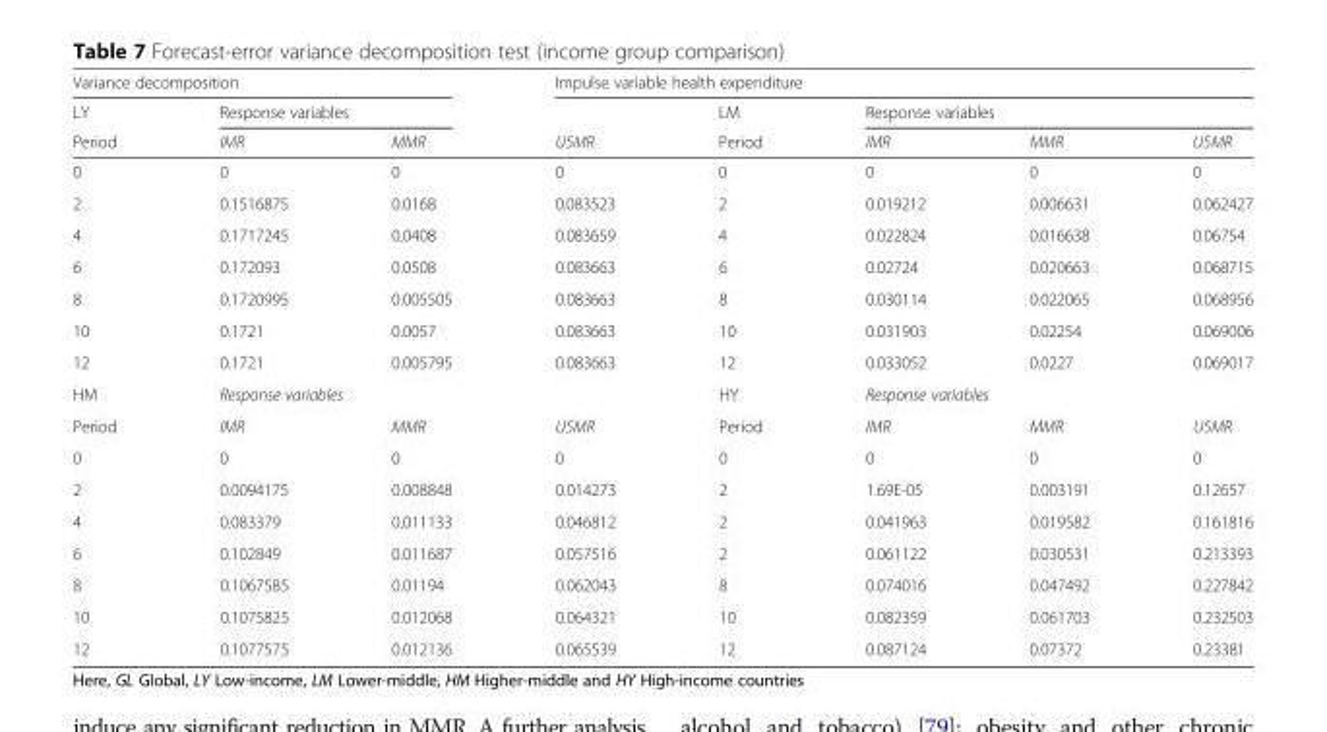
<table><thead><tr><td colspan="3">Variance decomposition</td><td colspan="5">Impulse variable health expenditure</td></tr><tr><td rowspan="2">LY Period</td><td colspan="2">Response variables</td><td rowspan="2">U5MR</td><td rowspan="2">LM Period</td><td colspan="3">Response variables</td></tr><tr><td>IMR</td><td>MMR</td><td>IMR</td><td>MMR</td><td>U5MR</td></tr></thead><tbody><tr><td>0</td><td>0</td><td>0</td><td>0</td><td>0</td><td>0</td><td>0</td><td>0</td></tr><tr><td>2</td><td>0.1516875</td><td>0.0168</td><td>0.083523</td><td>2</td><td>0.019212</td><td>0.006631</td><td>0.062427</td></tr><tr><td>4</td><td>0.1717245</td><td>0.0408</td><td>0.083659</td><td>4</td><td>0.022824</td><td>0.016638</td><td>0.06754</td></tr><tr><td>6</td><td>0.172093</td><td>0.0508</td><td>0.083663</td><td>6</td><td>0.02724</td><td>0.020663</td><td>0.068715</td></tr><tr><td>8</td><td>0.1720995</td><td>0.005505</td><td>0.083663</td><td>8</td><td>0.030114</td><td>0.022065</td><td>0.068956</td></tr><tr><td>10</td><td>0.1721</td><td>0.0057</td><td>0.083663</td><td>10</td><td>0.031903</td><td>0.02254</td><td>0.069006</td></tr><tr><td>12</td><td>0.1721</td><td>0.005795</td><td>0.083663</td><td>12</td><td>0.033052</td><td>0.0227</td><td>0.069017</td></tr><tr><td>HM</td><td colspan="2">Response variables</td><td></td><td>HY</td><td colspan="2">Response variables</td><td></td></tr><tr><td>Period</td><td>IMR</td><td>MMR</td><td>U5MR</td><td>Period</td><td>IMR</td><td>MMR</td><td>U5MR</td></tr><tr><td>0</td><td>0</td><td>0</td><td>0</td><td>0</td><td>0</td><td>0</td><td>0</td></tr><tr><td>2</td><td>0.0094175</td><td>0.008848</td><td>0.014273</td><td>2</td><td>1.69E-05</td><td>0.003191</td><td>0.12657</td></tr><tr><td>4</td><td>0.083379</td><td>0.011133</td><td>0.046812</td><td>2</td><td>0.041963</td><td>0.019582</td><td>0.161816</td></tr><tr><td>6</td><td>0.102849</td><td>0.011687</td><td>0.057516</td><td>2</td><td>0.061122</td><td>0.030531</td><td>0.213393</td></tr><tr><td>8</td><td>0.1067585</td><td>0.01194</td><td>0.062043</td><td>8</td><td>0.074016</td><td>0.047492</td><td>0.227842</td></tr><tr><td>10</td><td>0.1075825</td><td>0.012068</td><td>0.064321</td><td>10</td><td>0.082359</td><td>0.061703</td><td>0.232503</td></tr><tr><td>12</td><td>0.1077575</td><td>0.012136</td><td>0.065539</td><td>12</td><td>0.087124</td><td>0.07372</td><td>0.23381</td></tr></tbody></table>